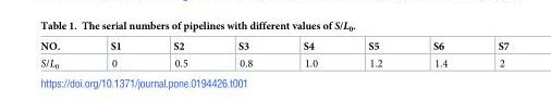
<table><thead><tr><td>NO.</td><td>S1</td><td>S2</td><td>S3</td><td>S4</td><td>S5</td><td>S6</td><td>S7</td></tr></thead><tbody><tr><td>S/L<sub>0</sub></td><td>0</td><td>0.5</td><td>0.8</td><td>1.0</td><td>1.2</td><td>1.4</td><td>2</td></tr></tbody></table>